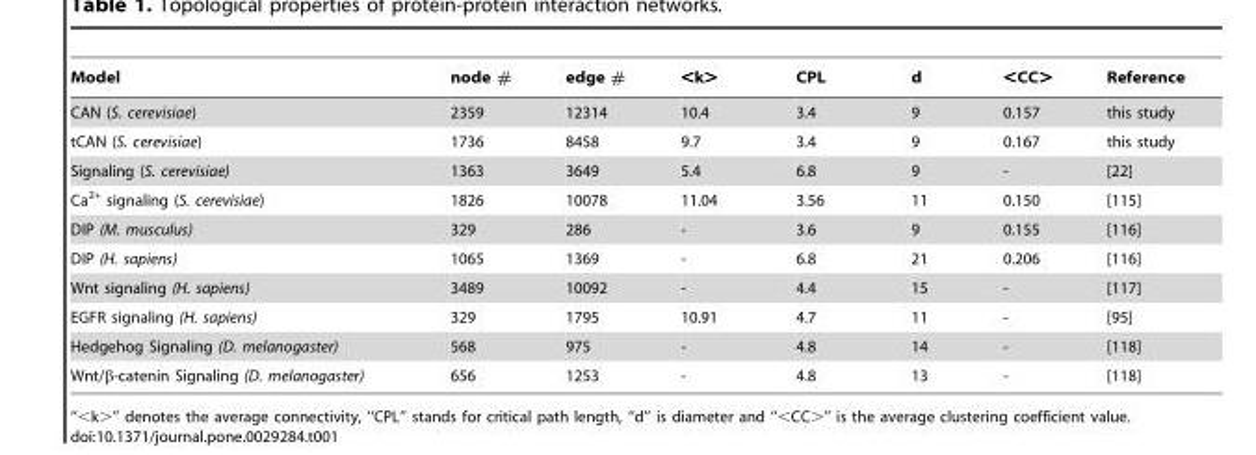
<table><thead><tr><td>Model</td><td>node #</td><td>edge #</td><td>&lt;k&gt;</td><td>CPL</td><td>d</td><td>&lt;CC&gt;</td><td>Reference</td></tr></thead><tbody><tr><td>CAN (S. cerevisiae)</td><td>2359</td><td>12314</td><td>10.4</td><td>3.4</td><td>9</td><td>0.157</td><td>this study</td></tr><tr><td>tCAN (S. cerevisiae)</td><td>1736</td><td>8458</td><td>9.7</td><td>3.4</td><td>9</td><td>0.167</td><td>this study</td></tr><tr><td>Signaling (S. cerevisiae)</td><td>1363</td><td>3649</td><td>5.4</td><td>6.8</td><td>9</td><td>-</td><td>[22]</td></tr><tr><td>Ca<sup>2+</sup> signaling (S. cerevisiae)</td><td>1826</td><td>10078</td><td>11.04</td><td>3.56</td><td>11</td><td>0.150</td><td>[115]</td></tr><tr><td>DIP (M. musculus)</td><td>329</td><td>286</td><td>-</td><td>3.6</td><td>9</td><td>0.155</td><td>[116]</td></tr><tr><td>DIP (H. sapiens)</td><td>1065</td><td>1369</td><td>-</td><td>6.8</td><td>21</td><td>0.206</td><td>[116]</td></tr><tr><td>Wnt signaling (H. sapiens)</td><td>3489</td><td>10092</td><td>-</td><td>4.4</td><td>15</td><td>-</td><td>[117]</td></tr><tr><td>EGFR signaling (H. sapiens)</td><td>329</td><td>1795</td><td>10.91</td><td>4.7</td><td>11</td><td>-</td><td>[95]</td></tr><tr><td>Hedgehog Signaling (D. melanogaster)</td><td>568</td><td>975</td><td>-</td><td>4.8</td><td>14</td><td>-</td><td>[118]</td></tr><tr><td>Wnt/β-catenin Signaling (D. melanogaster)</td><td>656</td><td>1253</td><td>-</td><td>4.8</td><td>13</td><td>-</td><td>[118]</td></tr></tbody></table>